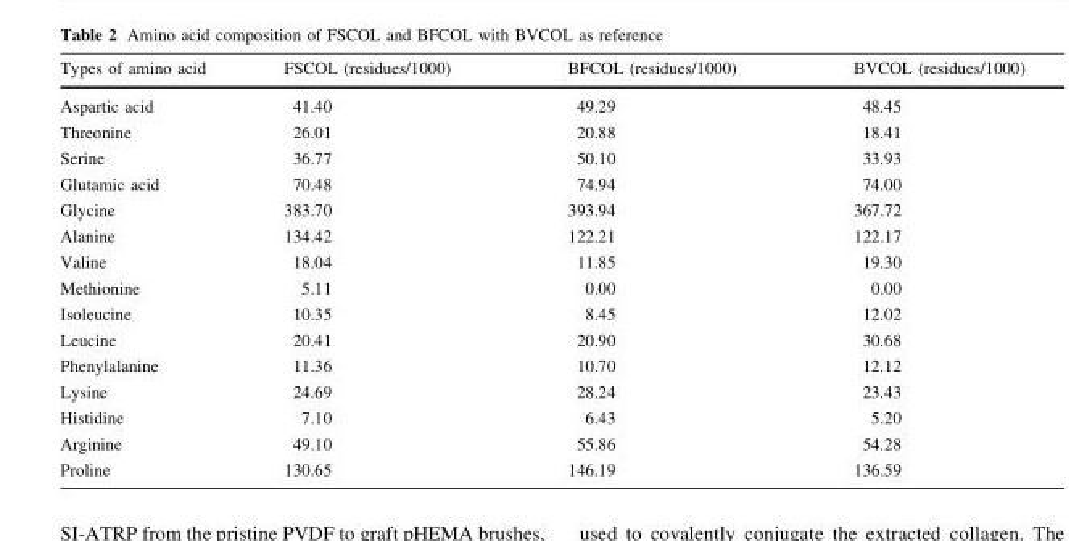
<table><thead><tr><td>Types of amino acid</td><td>FSCOL (residues/1000)</td><td>BFCOL (residues/1000)</td><td>BVCOL (residues/1000)</td></tr></thead><tbody><tr><td>Aspartic acid</td><td>41.40</td><td>49.29</td><td>48.45</td></tr><tr><td>Threonine</td><td>26.01</td><td>20.88</td><td>18.41</td></tr><tr><td>Serine</td><td>36.77</td><td>50.10</td><td>33.93</td></tr><tr><td>Glutamic acid</td><td>70.48</td><td>74.94</td><td>74.00</td></tr><tr><td>Glycine</td><td>383.70</td><td>393.94</td><td>367.72</td></tr><tr><td>Alanine</td><td>134.42</td><td>122.21</td><td>122.17</td></tr><tr><td>Valine</td><td>18.04</td><td>11.85</td><td>19.30</td></tr><tr><td>Methionine</td><td>5.11</td><td>0.00</td><td>0.00</td></tr><tr><td>Isoleucine</td><td>10.35</td><td>8.45</td><td>12.02</td></tr><tr><td>Leucine</td><td>20.41</td><td>20.90</td><td>30.68</td></tr><tr><td>Phenylalanine</td><td>11.36</td><td>10.70</td><td>12.12</td></tr><tr><td>Lysine</td><td>24.69</td><td>28.24</td><td>23.43</td></tr><tr><td>Histidine</td><td>7.10</td><td>6.43</td><td>5.20</td></tr><tr><td>Arginine</td><td>49.10</td><td>55.86</td><td>54.28</td></tr><tr><td>Proline</td><td>130.65</td><td>146.19</td><td>136.59</td></tr></tbody></table>